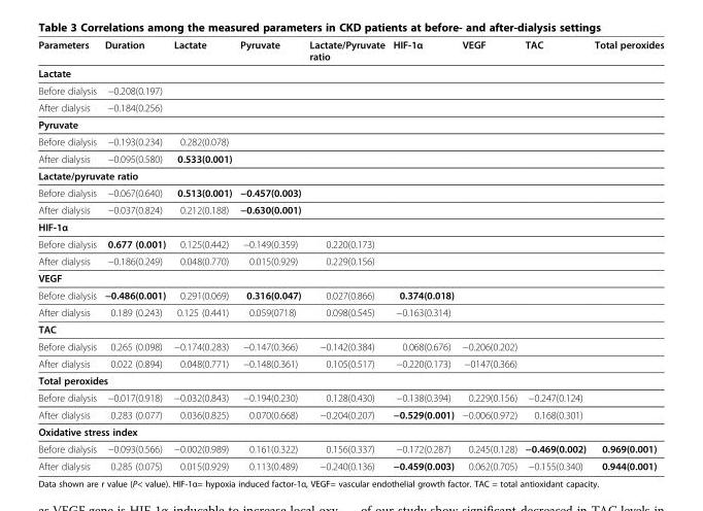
<table><thead><tr><td>Parameters</td><td>Duration</td><td>Lactate</td><td>Pyruvate</td><td>Lactate/Pyruvate ratio</td><td>HIF-1α</td><td>VEGF</td><td>TAC</td><td>Total peroxides</td></tr></thead><tbody><tr><td colspan="9">Lactate</td></tr><tr><td>Before dialysis</td><td>−0.208(0.197)</td><td></td><td></td><td></td><td></td><td></td><td></td><td></td></tr><tr><td>After dialysis</td><td>−0.184(0.256)</td><td></td><td></td><td></td><td></td><td></td><td></td><td></td></tr><tr><td colspan="9">Pyruvate</td></tr><tr><td>Before dialysis</td><td>−0.193(0.234)</td><td>0.282(0.078)</td><td></td><td></td><td></td><td></td><td></td><td></td></tr><tr><td>After dialysis</td><td>−0.095(0.580)</td><td>0.533(0.001)</td><td></td><td></td><td></td><td></td><td></td><td></td></tr><tr><td colspan="9">Lactate/pyruvate ratio</td></tr><tr><td>Before dialysis</td><td>−0.067(0.640)</td><td>0.513(0.001)</td><td>−0.457(0.003)</td><td></td><td></td><td></td><td></td><td></td></tr><tr><td>After dialysis</td><td>−0.037(0.824)</td><td>0.212(0.188)</td><td>−0.630(0.001)</td><td></td><td></td><td></td><td></td><td></td></tr><tr><td colspan="9">HIF-1α</td></tr><tr><td>Before dialysis</td><td>0.677 (0.001)</td><td>0.125(0.442)</td><td>−0.149(0.359)</td><td>0.220(0.173)</td><td></td><td></td><td></td><td></td></tr><tr><td>After dialysis</td><td>−0.186(0.249)</td><td>0.048(0.770)</td><td>0.015(0.929)</td><td>0.229(0.156)</td><td></td><td></td><td></td><td></td></tr><tr><td colspan="9">VEGF</td></tr><tr><td>Before dialysis</td><td>−0.486(0.001)</td><td>0.291(0.069)</td><td>0.316(0.047)</td><td>0.027(0.866)</td><td>0.374(0.018)</td><td></td><td></td><td></td></tr><tr><td>After dialysis</td><td>0.189 (0.243)</td><td>0.125 (0.441)</td><td>0.059(0718)</td><td>0.098(0.545)</td><td>−0.163(0.314)</td><td></td><td></td><td></td></tr><tr><td colspan="9">TAC</td></tr><tr><td>Before dialysis</td><td>0.265 (0.098)</td><td>−0.174(0.283)</td><td>−0.147(0.366)</td><td>−0.142(0.384)</td><td>0.068(0.676)</td><td>−0.206(0.202)</td><td></td><td></td></tr><tr><td>After dialysis</td><td>0.022 (0.894)</td><td>0.048(0.771)</td><td>−0.148(0.361)</td><td>0.105(0.517)</td><td>−0.220(0.173)</td><td>−0147(0.366)</td><td></td><td></td></tr><tr><td colspan="9">Total peroxides</td></tr><tr><td>Before dialysis</td><td>−0.017(0.918)</td><td>−0.032(0.843)</td><td>−0.194(0.230)</td><td>0.128(0.430)</td><td>−0.138(0.394)</td><td>0.229(0.156)</td><td>−0.247(0.124)</td><td></td></tr><tr><td>After dialysis</td><td>0.283 (0.077)</td><td>0.036(0.825)</td><td>0.070(0.668)</td><td>−0.204(0.207)</td><td>−0.529(0.001)</td><td>−0.006(0.972)</td><td>0.168(0.301)</td><td></td></tr><tr><td colspan="9">Oxidative stress index</td></tr><tr><td>Before dialysis</td><td>−0.093(0.566)</td><td>−0.002(0.989)</td><td>0.161(0.322)</td><td>0.156(0.337)</td><td>−0.172(0.287)</td><td>0.245(0.128)</td><td>−0.469(0.002)</td><td>0.969(0.001)</td></tr><tr><td>After dialysis</td><td>0.285 (0.075)</td><td>0.015(0.929)</td><td>0.113(0.489)</td><td>−0.240(0.136)</td><td>−0.459(0.003)</td><td>0.062(0.705)</td><td>−0.155(0.340)</td><td>0.944(0.001)</td></tr></tbody></table>